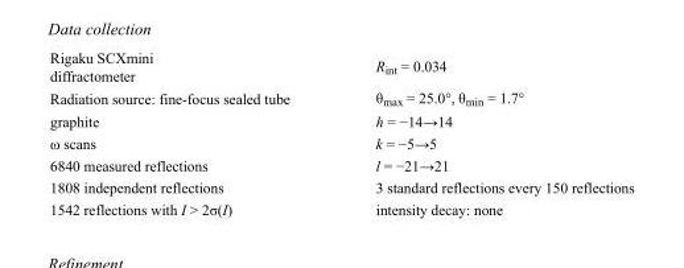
<table><tbody><tr><td>Rigaku SCXmini diffractometer</td><td>R<sub>int</sub> = 0.034</td></tr><tr><td>Radiation source: fine-focus sealed tube</td><td>θ<sub>max</sub> = 25.0°, θ<sub>min</sub> = 1.7°</td></tr><tr><td>graphite</td><td>h = −14→14</td></tr><tr><td>ω scans</td><td>k = −5→5</td></tr><tr><td>6840 measured reflections</td><td>l = −21→21</td></tr><tr><td>1808 independent reflections</td><td>3 standard reflections every 150 reflections</td></tr><tr><td>1542 reflections with I &gt; 2σ(I)</td><td>intensity decay: none</td></tr></tbody></table>